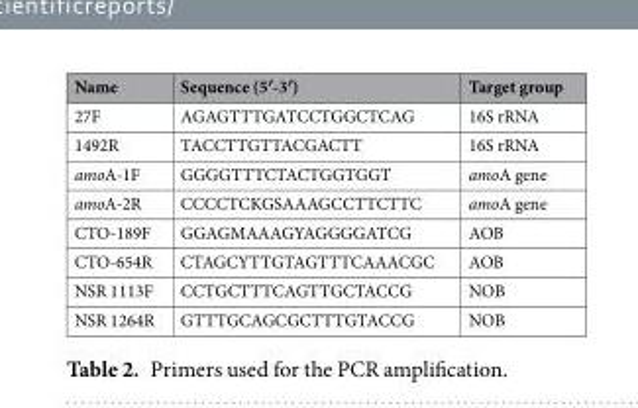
<table><thead><tr><td>Name</td><td>Sequence (5′-3′)</td><td>Target group</td></tr></thead><tbody><tr><td>27F</td><td>AGAGTTTGATCCTGGCTCAG</td><td>16S rRNA</td></tr><tr><td>1492R</td><td>TACCTTGTTACGACTT</td><td>16S rRNA</td></tr><tr><td>amoA-1F</td><td>GGGGTTTCTACTGGTGGT</td><td>amoA gene</td></tr><tr><td>amoA-2R</td><td>CCCCTCKGSAAAGCCTTCTTC</td><td>amoA gene</td></tr><tr><td>CTO-189F</td><td>GGAGMAAAGYAGGGGATCG</td><td>AOB</td></tr><tr><td>CTO-654R</td><td>CTAGCYTTGTAGTTTCAAACGC</td><td>AOB</td></tr><tr><td>NSR 1113F</td><td>CCTGCTTTCAGTTGCTACCG</td><td>NOB</td></tr><tr><td>NSR 1264R</td><td>GTTTGCAGCGCTTTGTACCG</td><td>NOB</td></tr></tbody></table>